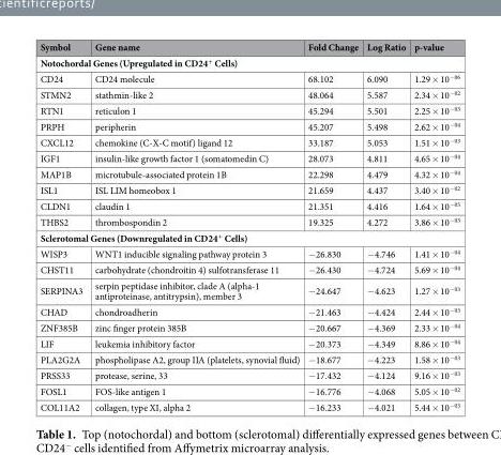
<table><thead><tr><td>Symbol</td><td>Gene name</td><td>Fold Change</td><td>Log Ratio</td><td>p-value</td></tr></thead><tbody><tr><td colspan="5">Notochordal Genes (Upregulated in CD24<sup>+</sup> Cells)</td></tr><tr><td>CD24</td><td>CD24 molecule</td><td>68.102</td><td>6.090</td><td>1.29 × 10<sup>−06</sup></td></tr><tr><td>STMN2</td><td>stathmin-like 2</td><td>48.064</td><td>5.587</td><td>2.34 × 10<sup>−02</sup></td></tr><tr><td>RTN1</td><td>reticulon 1</td><td>45.294</td><td>5.501</td><td>2.25 × 10<sup>−03</sup></td></tr><tr><td>PRPH</td><td>peripherin</td><td>45.207</td><td>5.498</td><td>2.62 × 10<sup>−04</sup></td></tr><tr><td>CXCL12</td><td>chemokine (C-X-C motif) ligand 12</td><td>33.187</td><td>5.053</td><td>1.51 × 10<sup>−03</sup></td></tr><tr><td>IGF1</td><td>insulin-like growth factor 1 (somatomedin C)</td><td>28.073</td><td>4.811</td><td>4.65 × 10<sup>−04</sup></td></tr><tr><td>MAP1B</td><td>microtubule-associated protein 1B</td><td>22.298</td><td>4.479</td><td>4.32 × 10<sup>−04</sup></td></tr><tr><td>ISL1</td><td>ISL LIM homeobox 1</td><td>21.659</td><td>4.437</td><td>3.40 × 10<sup>−02</sup></td></tr><tr><td>CLDN1</td><td>claudin 1</td><td>21.351</td><td>4.416</td><td>1.64 × 10<sup>−05</sup></td></tr><tr><td>THBS2</td><td>thrombospondin 2</td><td>19.325</td><td>4.272</td><td>3.86 × 10<sup>−03</sup></td></tr><tr><td colspan="5">Sclerotomal Genes (Downregulated in CD24<sup>+</sup> Cells)</td></tr><tr><td>WISP3</td><td>WNT1 inducible signaling pathway protein 3</td><td>−26.830</td><td>−4.746</td><td>1.41 × 10<sup>−04</sup></td></tr><tr><td>CHST11</td><td>carbohydrate (chondroitin 4) sulfotransferase 11</td><td>−26.430</td><td>−4.724</td><td>5.69 × 10<sup>−04</sup></td></tr><tr><td>SERPINA3</td><td>serpin peptidase inhibitor, clade A (alpha-1 antiproteinase, antitrypsin), member 3</td><td>−24.647</td><td>−4.623</td><td>1.27 × 10<sup>−03</sup></td></tr><tr><td>CHAD</td><td>chondroadherin</td><td>−21.463</td><td>−4.424</td><td>2.44 × 10<sup>−03</sup></td></tr><tr><td>ZNF385B</td><td>zinc finger protein 385B</td><td>−20.667</td><td>−4.369</td><td>2.33 × 10<sup>−04</sup></td></tr><tr><td>LIF</td><td>leukemia inhibitory factor</td><td>−20.373</td><td>−4.349</td><td>8.86 × 10<sup>−04</sup></td></tr><tr><td>PLA2G2A</td><td>phospholipase A2, group IIA (platelets, synovial fluid)</td><td>−18.677</td><td>−4.223</td><td>1.58 × 10<sup>−03</sup></td></tr><tr><td>PRSS33</td><td>protease, serine, 33</td><td>−17.432</td><td>−4.124</td><td>9.16 × 10<sup>−03</sup></td></tr><tr><td>FOSL1</td><td>FOS-like antigen 1</td><td>−16.776</td><td>−4.068</td><td>5.05 × 10<sup>−02</sup></td></tr><tr><td>COL11A2</td><td>collagen, type XI, alpha 2</td><td>−16.233</td><td>−4.021</td><td>5.44 × 10<sup>−03</sup></td></tr></tbody></table>